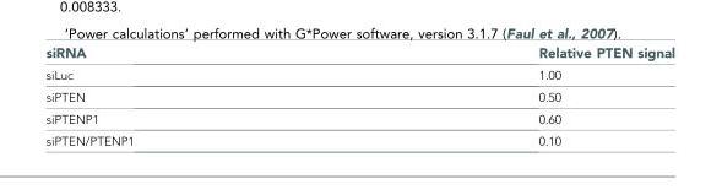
<table><thead><tr><td>siRNA</td><td>Relative PTEN signal</td></tr></thead><tbody><tr><td>siLuc</td><td>1.00</td></tr><tr><td>siPTEN</td><td>0.50</td></tr><tr><td>siPTENP1</td><td>0.60</td></tr><tr><td>siPTEN/PTENP1</td><td>0.10</td></tr></tbody></table>